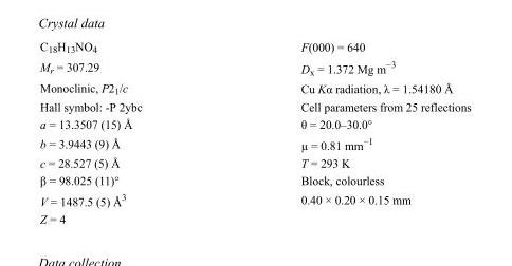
<table><tbody><tr><td>C<sub>18</sub>H<sub>13</sub>NO<sub>4</sub></td><td>F(000) = 640</td></tr><tr><td>M<sub>r</sub> = 307.29</td><td>D<sub>x</sub> = 1.372 Mg m<sup>−3</sup></td></tr><tr><td>Monoclinic, P2<sub>1</sub>/c</td><td>Cu Kα radiation, λ = 1.54180 Å</td></tr><tr><td>Hall symbol: -P 2ybc</td><td>Cell parameters from 25 reflections</td></tr><tr><td>a = 13.3507 (15) Å</td><td>θ = 20.0–30.0°</td></tr><tr><td>b = 3.9443 (9) Å</td><td>µ = 0.81 mm<sup>−1</sup></td></tr><tr><td>c = 28.527 (5) Å</td><td>T = 293 K</td></tr><tr><td>β = 98.025 (11)°</td><td>Block, colourless</td></tr><tr><td>V = 1487.5 (5) Å<sup>3</sup></td><td>0.40 × 0.20 × 0.15 mm</td></tr><tr><td>Z = 4</td><td></td></tr></tbody></table>